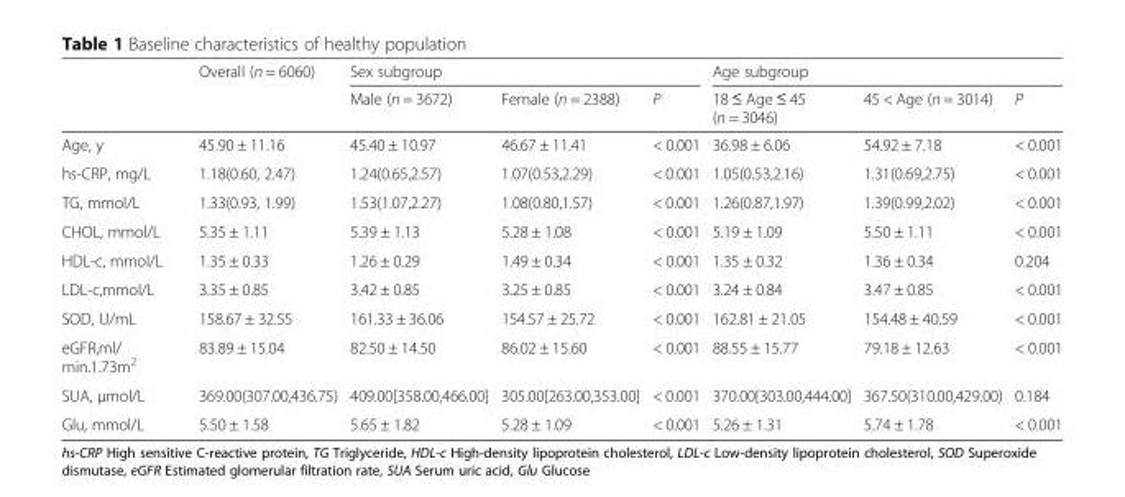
<table><thead><tr><td rowspan="2"></td><td rowspan="2">Overall (n = 6060)</td><td colspan="3">Sex subgroup</td><td colspan="3">Age subgroup</td></tr><tr><td>Male (n = 3672)</td><td>Female (n = 2388)</td><td>P</td><td>18 ≤ Age ≤ 45 (n = 3046)</td><td>45 &lt; Age (n = 3014)</td><td>P</td></tr></thead><tbody><tr><td>Age, y</td><td>45.90 ± 11.16</td><td>45.40 ± 10.97</td><td>46.67 ± 11.41</td><td>&lt; 0.001</td><td>36.98 ± 6.06</td><td>54.92 ± 7.18</td><td>&lt; 0.001</td></tr><tr><td>hs-CRP, mg/L</td><td>1.18(0.60, 2.47)</td><td>1.24(0.65,2.57)</td><td>1.07(0.53,2.29)</td><td>&lt; 0.001</td><td>1.05(0.53,2.16)</td><td>1.31(0.69,2.75)</td><td>&lt; 0.001</td></tr><tr><td>TG, mmol/L</td><td>1.33(0.93, 1.99)</td><td>1.53(1.07,2.27)</td><td>1.08(0.80,1.57)</td><td>&lt; 0.001</td><td>1.26(0.87,1.97)</td><td>1.39(0.99,2.02)</td><td>&lt; 0.001</td></tr><tr><td>CHOL, mmol/L</td><td>5.35 ± 1.11</td><td>5.39 ± 1.13</td><td>5.28 ± 1.08</td><td>&lt; 0.001</td><td>5.19 ± 1.09</td><td>5.50 ± 1.11</td><td>&lt; 0.001</td></tr><tr><td>HDL-c, mmol/L</td><td>1.35 ± 0.33</td><td>1.26 ± 0.29</td><td>1.49 ± 0.34</td><td>&lt; 0.001</td><td>1.35 ± 0.32</td><td>1.36 ± 0.34</td><td>0.204</td></tr><tr><td>LDL-c,mmol/L</td><td>3.35 ± 0.85</td><td>3.42 ± 0.85</td><td>3.25 ± 0.85</td><td>&lt; 0.001</td><td>3.24 ± 0.84</td><td>3.47 ± 0.85</td><td>&lt; 0.001</td></tr><tr><td>SOD, U/mL</td><td>158.67 ± 32.55</td><td>161.33 ± 36.06</td><td>154.57 ± 25.72</td><td>&lt; 0.001</td><td>162.81 ± 21.05</td><td>154.48 ± 40.59</td><td>&lt; 0.001</td></tr><tr><td>eGFR,ml/ min.1.73m<sup>2</sup></td><td>83.89 ± 15.04</td><td>82.50 ± 14.50</td><td>86.02 ± 15.60</td><td>&lt; 0.001</td><td>88.55 ± 15.77</td><td>79.18 ± 12.63</td><td>&lt; 0.001</td></tr><tr><td>SUA, μmol/L</td><td>369.00(307.00,436.75)</td><td>409.00[358.00,466.00]</td><td>305.00[263.00,353.00]</td><td>&lt; 0.001</td><td>370.00[303.00,444.00]</td><td>367.50(310.00,429.00)</td><td>0.184</td></tr><tr><td>Glu, mmol/L</td><td>5.50 ± 1.58</td><td>5.65 ± 1.82</td><td>5.28 ± 1.09</td><td>&lt; 0.001</td><td>5.26 ± 1.31</td><td>5.74 ± 1.78</td><td>&lt; 0.001</td></tr></tbody></table>